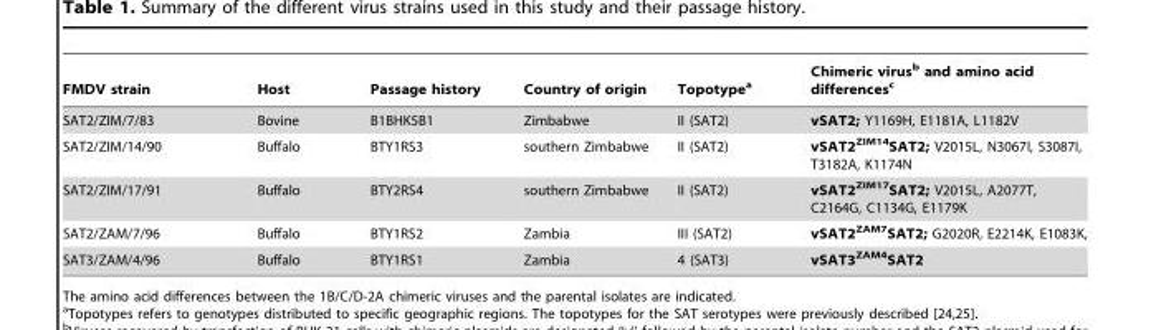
<table><thead><tr><td>FMDV strain</td><td>Host</td><td>Passage history</td><td>Country of origin</td><td>Topotype<sup>a</sup></td><td>Chimeric virus<sup>b</sup> and amino acid differences<sup>c</sup></td></tr></thead><tbody><tr><td>SAT2/ZIM/7/83</td><td>Bovine</td><td>B1BHK5B1</td><td>Zimbabwe</td><td>II (SAT2)</td><td>vSAT2; Y1169H, E1181A, L1182V</td></tr><tr><td>SAT2/ZIM/14/90</td><td>Buffalo</td><td>BTY1RS3</td><td>southern Zimbabwe</td><td>II (SAT2)</td><td>vSAT2<sup>ZIM14</sup>SAT2; V2015L, N3067I, S3087I, T3182A, K1174N</td></tr><tr><td>SAT2/ZIM/17/91</td><td>Buffalo</td><td>BTY2RS4</td><td>southern Zimbabwe</td><td>II (SAT2)</td><td>vSAT2<sup>ZIM17</sup>SAT2; V2015L, A2077T, C2164G, C1134G, E1179K</td></tr><tr><td>SAT2/ZAM/7/96</td><td>Buffalo</td><td>BTY1RS2</td><td>Zambia</td><td>III (SAT2)</td><td>vSAT2<sup>ZAM7</sup>SAT2; G2020R, E2214K, E1083K,</td></tr><tr><td>SAT3/ZAM/4/96</td><td>Buffalo</td><td>BTY1RS1</td><td>Zambia</td><td>4 (SAT3)</td><td>vSAT3<sup>ZAM4</sup>SAT2</td></tr></tbody></table>